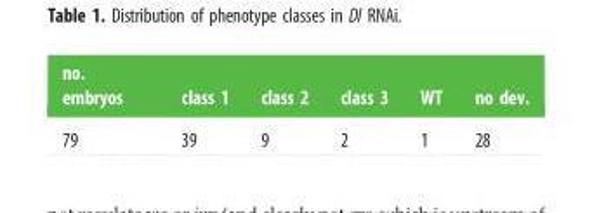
<table><thead><tr><td>no. embryos</td><td>class 1</td><td>class 2</td><td>class 3</td><td>WT</td><td>no dev.</td></tr></thead><tbody><tr><td>79</td><td>39</td><td>9</td><td>2</td><td>1</td><td>28</td></tr></tbody></table>